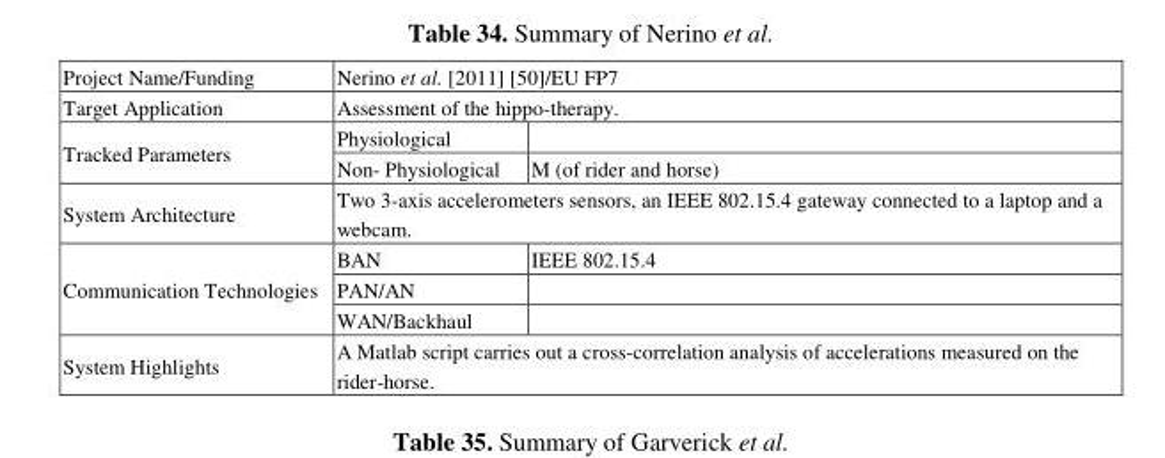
<table><tbody><tr><td>Project Name/Funding</td><td colspan="2">Nerino et al. [2011] [50]/EU FP7</td></tr><tr><td>Target Application</td><td colspan="2">Assessment of the hippo-therapy.</td></tr><tr><td rowspan="2">Tracked Parameters</td><td>Physiological</td><td></td></tr><tr><td>Non- Physiological</td><td>M (of rider and horse)</td></tr><tr><td>System Architecture</td><td colspan="2">Two 3-axis accelerometers sensors, an IEEE 802.15.4 gateway connected to a laptop and a webcam.</td></tr><tr><td rowspan="3">Communication Technologies</td><td>BAN</td><td>IEEE 802.15.4</td></tr><tr><td>PAN/AN</td><td></td></tr><tr><td>WAN/Backhaul</td><td></td></tr><tr><td>System Highlights</td><td colspan="2">A Matlab script carries out a cross-correlation analysis of accelerations measured on the rider-horse.</td></tr></tbody></table>